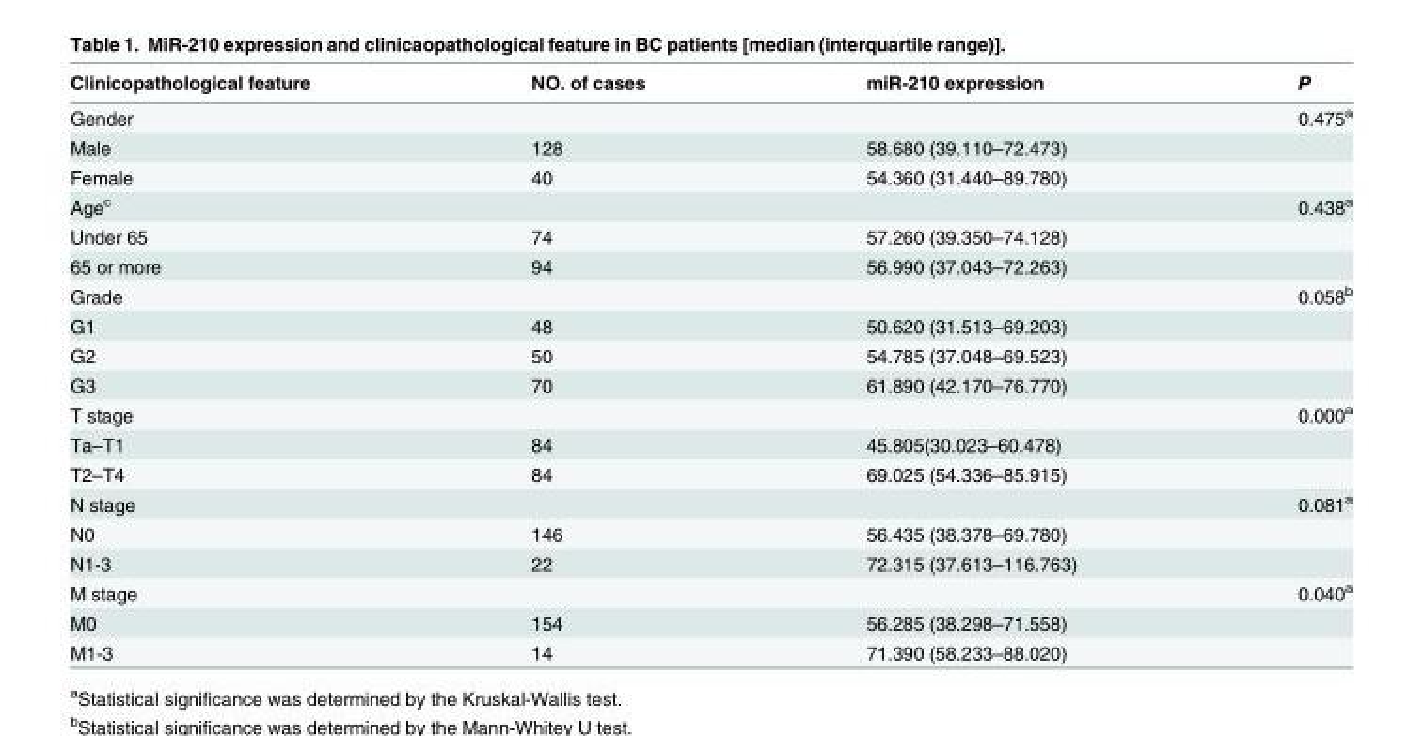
<table><thead><tr><td>Clinicopathological feature</td><td>NO. of cases</td><td>miR-210 expression</td><td>P</td></tr></thead><tbody><tr><td>Gender</td><td></td><td></td><td>0.475<sup>a</sup></td></tr><tr><td>Male</td><td>128</td><td>58.680 (39.110–72.473)</td><td></td></tr><tr><td>Female</td><td>40</td><td>54.360 (31.440–89.780)</td><td></td></tr><tr><td>Age<sup>c</sup></td><td></td><td></td><td>0.438<sup>a</sup></td></tr><tr><td>Under 65</td><td>74</td><td>57.260 (39.350–74.128)</td><td></td></tr><tr><td>65 or more</td><td>94</td><td>56.990 (37.043–72.263)</td><td></td></tr><tr><td>Grade</td><td></td><td></td><td>0.058<sup>b</sup></td></tr><tr><td>G1</td><td>48</td><td>50.620 (31.513–69.203)</td><td></td></tr><tr><td>G2</td><td>50</td><td>54.785 (37.048–69.523)</td><td></td></tr><tr><td>G3</td><td>70</td><td>61.890 (42.170–76.770)</td><td></td></tr><tr><td>T stage</td><td></td><td></td><td>0.000<sup>a</sup></td></tr><tr><td>Ta–T1</td><td>84</td><td>45.805(30.023–60.478)</td><td></td></tr><tr><td>T2–T4</td><td>84</td><td>69.025 (54.336–85.915)</td><td></td></tr><tr><td>N stage</td><td></td><td></td><td>0.081<sup>a</sup></td></tr><tr><td>N0</td><td>146</td><td>56.435 (38.378–69.780)</td><td></td></tr><tr><td>N1-3</td><td>22</td><td>72.315 (37.613–116.763)</td><td></td></tr><tr><td>M stage</td><td></td><td></td><td>0.040<sup>a</sup></td></tr><tr><td>M0</td><td>154</td><td>56.285 (38.298–71.558)</td><td></td></tr><tr><td>M1-3</td><td>14</td><td>71.390 (58.233–88.020)</td><td></td></tr></tbody></table>